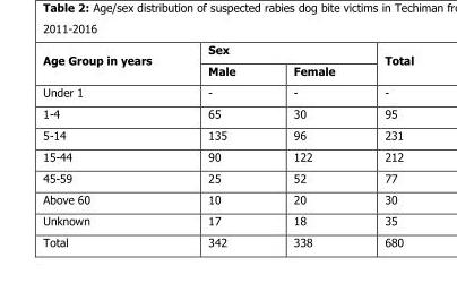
<table><thead><tr><td rowspan="2">Age Group in years</td><td colspan="2">Sex</td><td rowspan="2">Total</td></tr><tr><td>Male</td><td>Female</td></tr></thead><tbody><tr><td>Under 1</td><td>-</td><td>-</td><td>-</td></tr><tr><td>1-4</td><td>65</td><td>30</td><td>95</td></tr><tr><td>5-14</td><td>135</td><td>96</td><td>231</td></tr><tr><td>15-44</td><td>90</td><td>122</td><td>212</td></tr><tr><td>45-59</td><td>25</td><td>52</td><td>77</td></tr><tr><td>Above 60</td><td>10</td><td>20</td><td>30</td></tr><tr><td>Unknown</td><td>17</td><td>18</td><td>35</td></tr><tr><td>Total</td><td>342</td><td>338</td><td>680</td></tr></tbody></table>